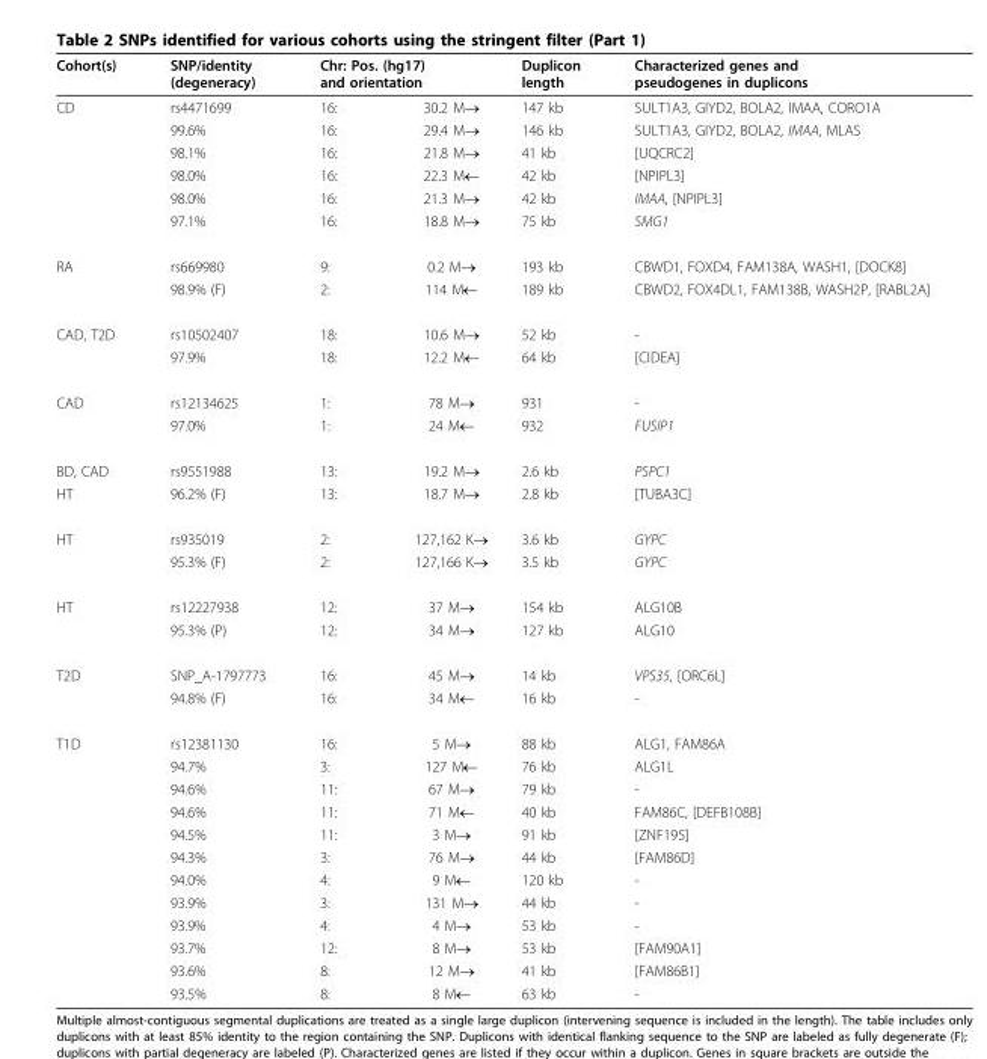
<table><thead><tr><td rowspan="2">Cohort(s) CD</td><td rowspan="2">SNP/identity (degeneracy) rs4471699</td><td colspan="2">Chr: Pos. (hg17) and orientation</td><td rowspan="2">Duplicon length 147 kb</td><td rowspan="2">Characterized genes and pseudogenes in duplicons SULT1A3, GIYD2, BOLA2, IMAA, CORO1A</td></tr><tr><td>16:</td><td>30.2 M→</td></tr></thead><tbody><tr><td></td><td>99.6%</td><td>16:</td><td>29.4 M→</td><td>146 kb</td><td>SULT1A3, GIYD2, BOLA2, IMAA, MLAS</td></tr><tr><td></td><td>98.1%</td><td>16:</td><td>21.8 M→</td><td>41 kb</td><td>[UQCRC2]</td></tr><tr><td></td><td>98.0%</td><td>16:</td><td>22.3 M¬</td><td>42 kb</td><td>[NPIPL3]</td></tr><tr><td></td><td>98.0%</td><td>16:</td><td>21.3 M→</td><td>42 kb</td><td>IMAA, [NPIPL3]</td></tr><tr><td></td><td>97.1%</td><td>16:</td><td>18.8 M→</td><td>75 kb</td><td>SMG1</td></tr><tr><td rowspan="2">RA</td><td>rs669980</td><td>9:</td><td>0.2 M→</td><td>193 kb</td><td>CBWD1, FOXD4, FAM138A, WASH1, [DOCK8]</td></tr><tr><td>98.9% (F)</td><td>2:</td><td>114 M¬</td><td>189 kb</td><td>CBWD2, FOX4DL1, FAM138B, WASH2P, [RABL2A]</td></tr><tr><td rowspan="2">CAD, T2D</td><td>rs10502407</td><td>18:</td><td>10.6 M→</td><td>52 kb</td><td>-</td></tr><tr><td>97.9%</td><td>18:</td><td>12.2 M¬</td><td>64 kb</td><td>[CIDEA]</td></tr><tr><td rowspan="2">CAD</td><td>rs12134625</td><td>1:</td><td>78 M→</td><td>931</td><td>-</td></tr><tr><td>97.0%</td><td>1:</td><td>24 M¬</td><td>932</td><td>FUSIP1</td></tr><tr><td>BD, CAD</td><td>rs9551988</td><td>13:</td><td>19.2 M→</td><td>2.6 kb</td><td>PSPC1</td></tr><tr><td>HT</td><td>96.2% (F)</td><td>13:</td><td>18.7 M→</td><td>2.8 kb</td><td>[TUBA3C]</td></tr><tr><td rowspan="2">HT</td><td>rs935019</td><td>2:</td><td>127,162 K→</td><td>3.6 kb</td><td>GYPC</td></tr><tr><td>95.3% (F)</td><td>2:</td><td>127,166 K→</td><td>3.5 kb</td><td>GYPC</td></tr><tr><td rowspan="2">HT</td><td>rs12227938</td><td>12:</td><td>37 M→</td><td>154 kb</td><td>ALG10B</td></tr><tr><td>95.3% (P)</td><td>12:</td><td>34 M→</td><td>127 kb</td><td>ALG10</td></tr><tr><td rowspan="2">T2D</td><td>SNP_A-1797773</td><td>16:</td><td>45 M→</td><td>14 kb</td><td>VPS35, [ORC6L]</td></tr><tr><td>94.8% (F)</td><td>16:</td><td>34 M¬</td><td>16 kb</td><td>-</td></tr><tr><td rowspan="12">T1D</td><td>rs12381130</td><td>16:</td><td>5 M→</td><td>88 kb</td><td>ALG1, FAM86A</td></tr><tr><td>94.7%</td><td>3:</td><td>127 M¬</td><td>76 kb</td><td>ALG1L</td></tr><tr><td>94.6%</td><td>11:</td><td>67 M→</td><td>79 kb</td><td>-</td></tr><tr><td>94.6%</td><td>11:</td><td>71 M¬</td><td>40 kb</td><td>FAM86C, [DEFB108B]</td></tr><tr><td>94.5%</td><td>11:</td><td>3 M→</td><td>91 kb</td><td>[ZNF195]</td></tr><tr><td>94.3%</td><td>3:</td><td>76 M→</td><td>44 kb</td><td>[FAM86D]</td></tr><tr><td>94.0%</td><td>4:</td><td>9 M¬</td><td>120 kb</td><td>-</td></tr><tr><td>93.9%</td><td>3:</td><td>131 M→</td><td>44 kb</td><td>-</td></tr><tr><td>93.9%</td><td>4:</td><td>4 M→</td><td>53 kb</td><td>-</td></tr><tr><td>93.7%</td><td>12:</td><td>8 M→</td><td>53 kb</td><td>[FAM90A1]</td></tr><tr><td>93.6%</td><td>8:</td><td>12 M→</td><td>41 kb</td><td>[FAM86B1]</td></tr><tr><td>93.5%</td><td>8:</td><td>8 M¬</td><td>63 kb</td><td>-</td></tr></tbody></table>